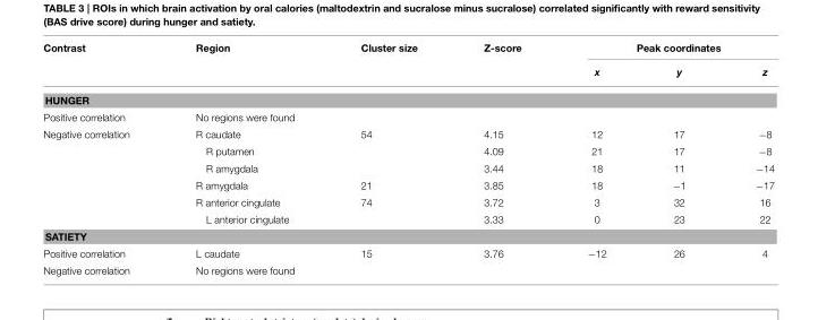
<table><thead><tr><td rowspan="2">Contrast</td><td rowspan="2">Region</td><td rowspan="2">Cluster size</td><td rowspan="2">Z-score</td><td colspan="3">Peak coordinates</td></tr><tr><td>x</td><td>y</td><td>z</td></tr></thead><tbody><tr><td colspan="7">HUNGER</td></tr><tr><td>Positive correlation</td><td>No regions were found</td><td></td><td></td><td></td><td></td><td></td></tr><tr><td rowspan="6">Negative correlation</td><td>R caudate</td><td>54</td><td>4.15</td><td>12</td><td>17</td><td>−8</td></tr><tr><td>R putamen</td><td></td><td>4.09</td><td>21</td><td>17</td><td>−8</td></tr><tr><td>R amygdala</td><td></td><td>3.44</td><td>18</td><td>11</td><td>−14</td></tr><tr><td>R amygdala</td><td>21</td><td>3.85</td><td>18</td><td>−1</td><td>−17</td></tr><tr><td>R anterior cingulate</td><td>74</td><td>3.72</td><td>3</td><td>32</td><td>16</td></tr><tr><td>L anterior cingulate</td><td></td><td>3.33</td><td>0</td><td>23</td><td>22</td></tr><tr><td colspan="7">SATIETY</td></tr><tr><td>Positive correlation</td><td>L caudate</td><td>15</td><td>3.76</td><td>−12</td><td>26</td><td>4</td></tr><tr><td>Negative correlation</td><td>No regions were found</td><td></td><td></td><td></td><td></td><td></td></tr></tbody></table>